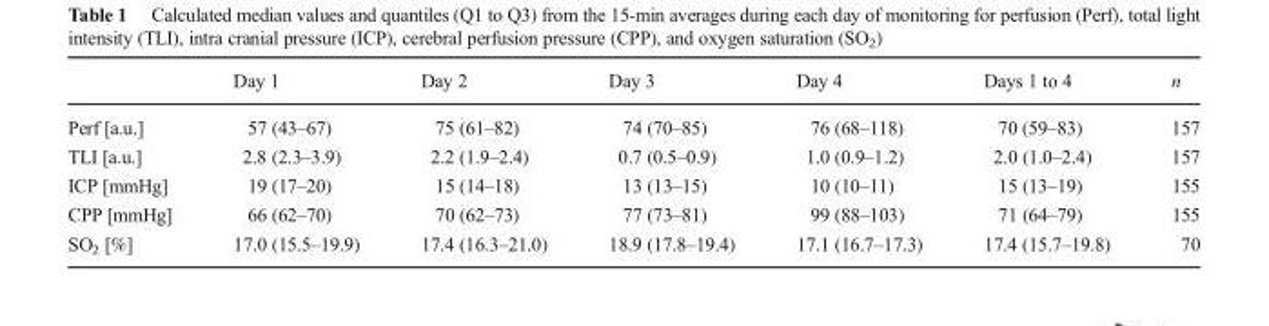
<table><thead><tr><td></td><td>Day 1</td><td>Day 2</td><td>Day 3</td><td>Day 4</td><td>Days 1 to 4</td><td>n</td></tr></thead><tbody><tr><td>Perf [a.u.]</td><td>57 (43–67)</td><td>75 (61–82)</td><td>74 (70–85)</td><td>76 (68–118)</td><td>70 (59–83)</td><td>157</td></tr><tr><td>TLI [a.u.]</td><td>2.8 (2.3–3.9)</td><td>2.2 (1.9–2.4)</td><td>0.7 (0.5–0.9)</td><td>1.0 (0.9–1.2)</td><td>2.0 (1.0–2.4)</td><td>157</td></tr><tr><td>ICP [mmHg]</td><td>19 (17–20)</td><td>15 (14–18)</td><td>13 (13–15)</td><td>10 (10–11)</td><td>15 (13–19)</td><td>155</td></tr><tr><td>CPP [mmHg]</td><td>66 (62–70)</td><td>70 (62–73)</td><td>77 (73–81)</td><td>99 (88–103)</td><td>71 (64–79)</td><td>155</td></tr><tr><td>SO<sub>2</sub> [%]</td><td>17.0 (15.5–19.9)</td><td>17.4 (16.3–21.0)</td><td>18.9 (17.8–19.4)</td><td>17.1 (16.7–17.3)</td><td>17.4 (15.7–19.8)</td><td>70</td></tr></tbody></table>